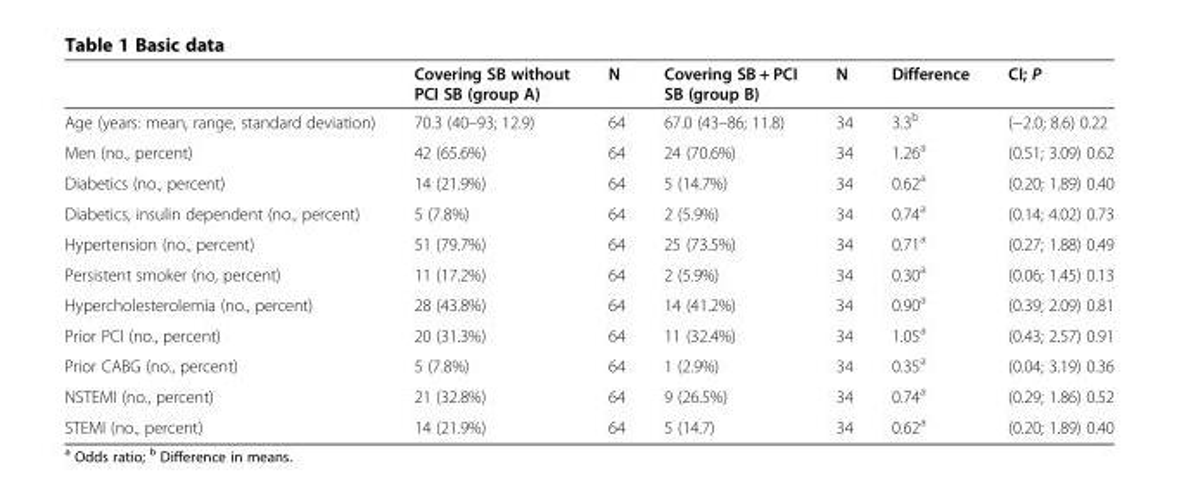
<table><thead><tr><td></td><td>Covering SB without PCI SB (group A)</td><td>N</td><td>Covering SB + PCI SB (group B)</td><td>N</td><td>Difference</td><td>CI; P</td></tr></thead><tbody><tr><td>Age (years: mean, range, standard deviation)</td><td>70.3 (40–93; 12.9)</td><td>64</td><td>67.0 (43–86; 11.8)</td><td>34</td><td>3.3<sup>b</sup></td><td>(−2.0; 8.6) 0.22</td></tr><tr><td>Men (no., percent)</td><td>42 (65.6%)</td><td>64</td><td>24 (70.6%)</td><td>34</td><td>1.26<sup>a</sup></td><td>(0.51; 3.09) 0.62</td></tr><tr><td>Diabetics (no., percent)</td><td>14 (21.9%)</td><td>64</td><td>5 (14.7%)</td><td>34</td><td>0.62<sup>a</sup></td><td>(0.20; 1.89) 0.40</td></tr><tr><td>Diabetics, insulin dependent (no., percent)</td><td>5 (7.8%)</td><td>64</td><td>2 (5.9%)</td><td>34</td><td>0.74<sup>a</sup></td><td>(0.14; 4.02) 0.73</td></tr><tr><td>Hypertension (no., percent)</td><td>51 (79.7%)</td><td>64</td><td>25 (73.5%)</td><td>34</td><td>0.71<sup>a</sup></td><td>(0.27; 1.88) 0.49</td></tr><tr><td>Persistent smoker (no, percent)</td><td>11 (17.2%)</td><td>64</td><td>2 (5.9%)</td><td>34</td><td>0.30<sup>a</sup></td><td>(0.06; 1.45) 0.13</td></tr><tr><td>Hypercholesterolemia (no., percent)</td><td>28 (43.8%)</td><td>64</td><td>14 (41.2%)</td><td>34</td><td>0.90<sup>a</sup></td><td>(0.39; 2.09) 0.81</td></tr><tr><td>Prior PCI (no., percent)</td><td>20 (31.3%)</td><td>64</td><td>11 (32.4%)</td><td>34</td><td>1.05<sup>a</sup></td><td>(0.43; 2.57) 0.91</td></tr><tr><td>Prior CABG (no., percent)</td><td>5 (7.8%)</td><td>64</td><td>1 (2.9%)</td><td>34</td><td>0.35<sup>a</sup></td><td>(0.04; 3.19) 0.36</td></tr><tr><td>NSTEMI (no., percent)</td><td>21 (32.8%)</td><td>64</td><td>9 (26.5%)</td><td>34</td><td>0.74<sup>a</sup></td><td>(0.29; 1.86) 0.52</td></tr><tr><td>STEMI (no., percent)</td><td>14 (21.9%)</td><td>64</td><td>5 (14.7)</td><td>34</td><td>0.62<sup>a</sup></td><td>(0.20; 1.89) 0.40</td></tr></tbody></table>